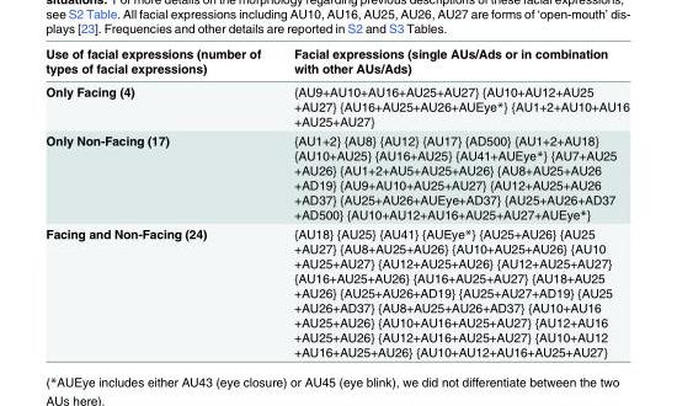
<table><thead><tr><td>Use of facial expressions (number of types of facial expressions)</td><td>Facial expressions (single AUs/Ads or in combination with other AUs/Ads)</td></tr></thead><tbody><tr><td>Only Facing (4)</td><td>{AU9+AU10+AU16+AU25+AU27} {AU10+AU12+AU25 +AU27} {AU16+AU25+AU26+AUEye*} {AU1+2+AU10+AU16 +AU25+AU27}</td></tr><tr><td>Only Non-Facing (17)</td><td>{AU1+2} {AU8} {AU12} {AU17} {AD500} {AU1+2+AU18} {AU10+AU25} {AU16+AU25} {AU41+AUEye*} {AU7+AU25 +AU26} {AU1+2+AU5+AU25+AU26} {AU8+AU25+AU26 +AD19} {AU9+AU10+AU25+AU27} {AU12+AU25+AU26 +AD37} {AU25+AU26+AUEye+AD37} {AU25+AU26+AD37 +AD500} {AU10+AU12+AU16+AU25+AU27+AUEye*}</td></tr><tr><td>Facing and Non-Facing (24)</td><td>{AU18} {AU25} {AU41} {AUEye*} {AU25+AU26} {AU25 +AU27} {AU8+AU25+AU26} {AU10+AU25+AU26} {AU10 +AU25+AU27} {AU12+AU25+AU26} {AU12+AU25+AU27} {AU16+AU25+AU26} {AU16+AU25+AU27} {AU18+AU25 +AU26} {AU25+AU26+AD19} {AU25+AU27+AD19} {AU25 +AU26+AD37} {AU8+AU25+AU26+AD37} {AU10+AU16 +AU25+AU26} {AU10+AU16+AU25+AU27} {AU12+AU16 +AU25+AU26} {AU12+AU16+AU25+AU27} {AU10+AU12 +AU16+AU25+AU26} {AU10+AU12+AU16+AU25+AU27}</td></tr></tbody></table>